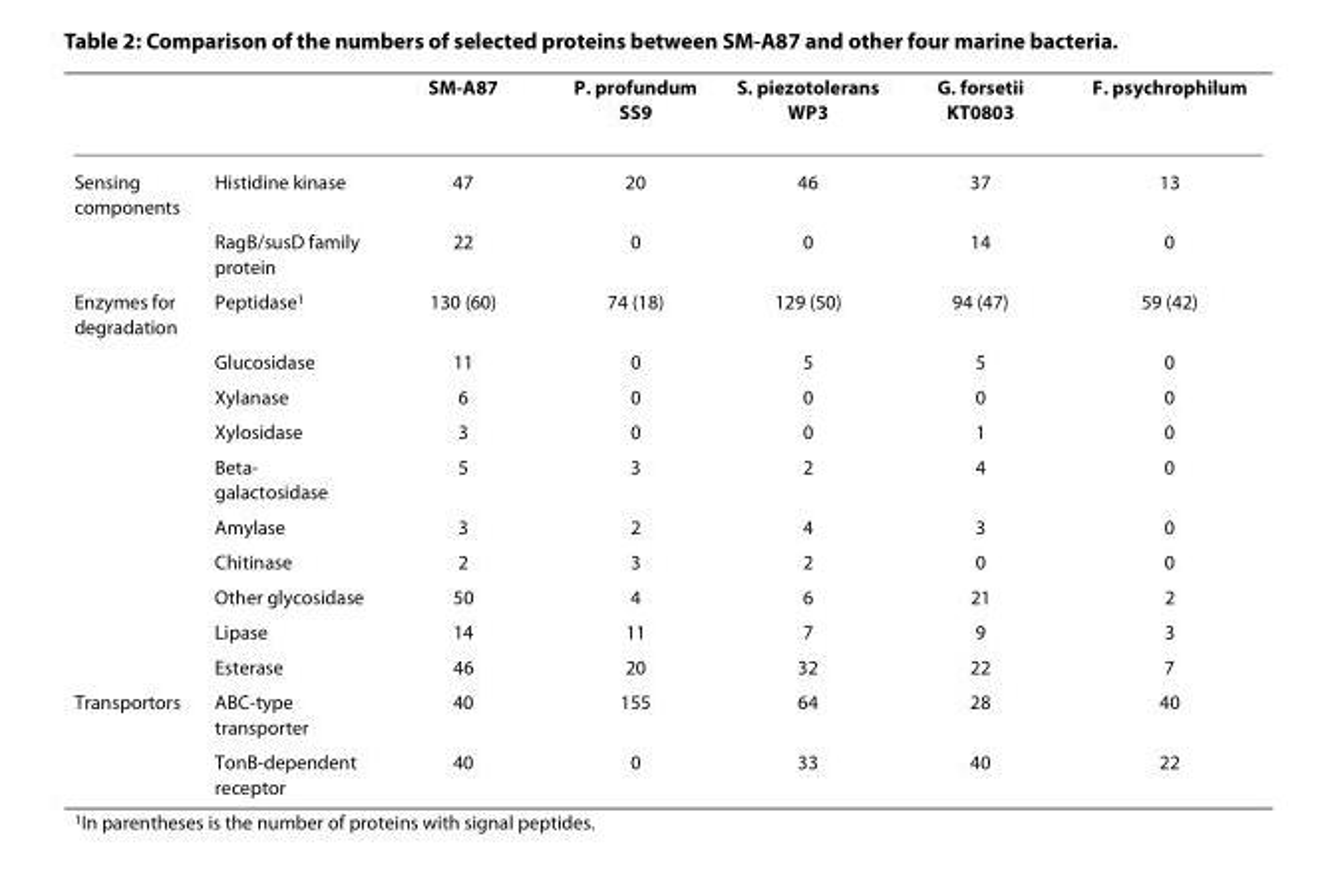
<table><thead><tr><td></td><td></td><td>SM-A87</td><td>P. profundum SS9</td><td>S. piezotolerans WP3</td><td>G. forsetii KT0803</td><td>F. psychrophilum</td></tr></thead><tbody><tr><td rowspan="2">Sensing components</td><td>Histidine kinase</td><td>47</td><td>20</td><td>46</td><td>37</td><td>13</td></tr><tr><td>RagB/susD family protein</td><td>22</td><td>0</td><td>0</td><td>14</td><td>0</td></tr><tr><td rowspan="10">Enzymes for degradation</td><td>Peptidase<sup>1</sup></td><td>130 (60)</td><td>74 (18)</td><td>129 (50)</td><td>94 (47)</td><td>59 (42)</td></tr><tr><td>Glucosidase</td><td>11</td><td>0</td><td>5</td><td>5</td><td>0</td></tr><tr><td>Xylanase</td><td>6</td><td>0</td><td>0</td><td>0</td><td>0</td></tr><tr><td>Xylosidase</td><td>3</td><td>0</td><td>0</td><td>1</td><td>0</td></tr><tr><td>Beta- galactosidase</td><td>5</td><td>3</td><td>2</td><td>4</td><td>0</td></tr><tr><td>Amylase</td><td>3</td><td>2</td><td>4</td><td>3</td><td>0</td></tr><tr><td>Chitinase</td><td>2</td><td>3</td><td>2</td><td>0</td><td>0</td></tr><tr><td>Other glycosidase</td><td>50</td><td>4</td><td>6</td><td>21</td><td>2</td></tr><tr><td>Lipase</td><td>14</td><td>11</td><td>7</td><td>9</td><td>3</td></tr><tr><td>Esterase</td><td>46</td><td>20</td><td>32</td><td>22</td><td>7</td></tr><tr><td rowspan="2">Transportors</td><td>ABC-type transporter</td><td>40</td><td>155</td><td>64</td><td>28</td><td>40</td></tr><tr><td>TonB-dependent receptor</td><td>40</td><td>0</td><td>33</td><td>40</td><td>22</td></tr></tbody></table>